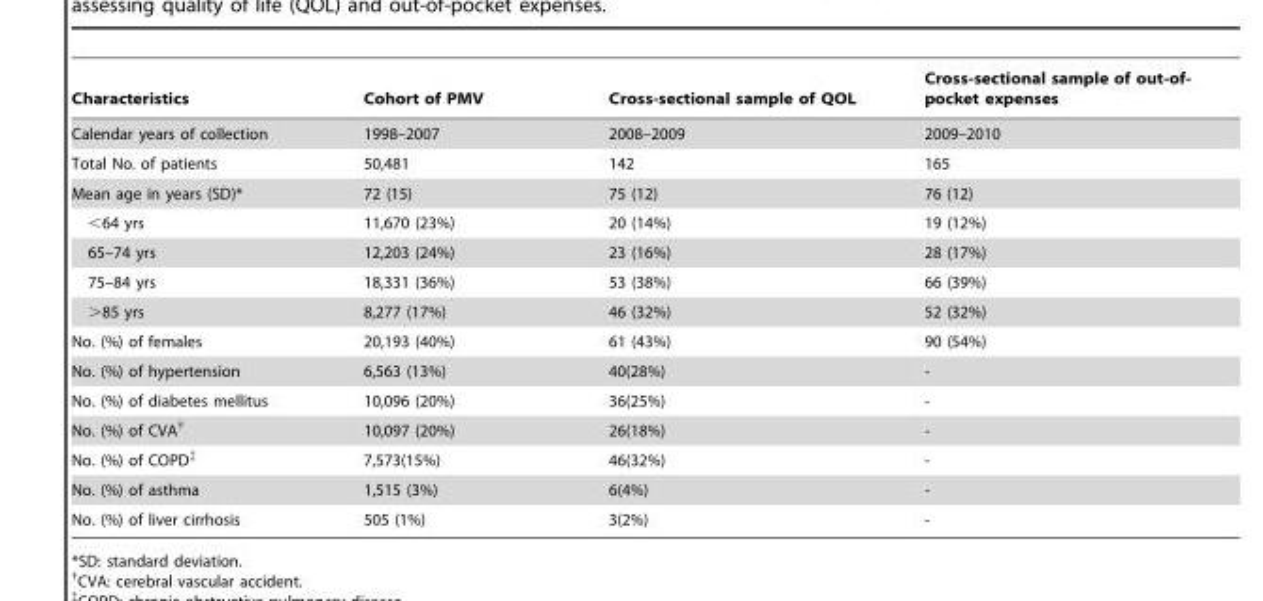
<table><thead><tr><td>Characteristics</td><td>Cohort of PMV</td><td>Cross-sectional sample of QOL</td><td>Cross-sectional sample of out-of- pocket expenses</td></tr></thead><tbody><tr><td>Calendar years of collection</td><td>1998–2007</td><td>2008–2009</td><td>2009–2010</td></tr><tr><td>Total No. of patients</td><td>50,481</td><td>142</td><td>165</td></tr><tr><td>Mean age in years (SD)*</td><td>72 (15)</td><td>75 (12)</td><td>76 (12)</td></tr><tr><td>&lt;64 yrs</td><td>11,670 (23%)</td><td>20 (14%)</td><td>19 (12%)</td></tr><tr><td>65–74 yrs</td><td>12,203 (24%)</td><td>23 (16%)</td><td>28 (17%)</td></tr><tr><td>75–84 yrs</td><td>18,331 (36%)</td><td>53 (38%)</td><td>66 (39%)</td></tr><tr><td>&gt;85 yrs</td><td>8,277 (17%)</td><td>46 (32%)</td><td>52 (32%)</td></tr><tr><td>No. (%) of females</td><td>20,193 (40%)</td><td>61 (43%)</td><td>90 (54%)</td></tr><tr><td>No. (%) of hypertension</td><td>6,563 (13%)</td><td>40(28%)</td><td>-</td></tr><tr><td>No. (%) of diabetes mellitus</td><td>10,096 (20%)</td><td>36(25%)</td><td>-</td></tr><tr><td>No. (%) of CVA†</td><td>10,097 (20%)</td><td>26(18%)</td><td>-</td></tr><tr><td>No. (%) of COPD‡</td><td>7,573(15%)</td><td>46(32%)</td><td>-</td></tr><tr><td>No. (%) of asthma</td><td>1,515 (3%)</td><td>6(4%)</td><td>-</td></tr><tr><td>No. (%) of liver cirrhosis</td><td>505 (1%)</td><td>3(2%)</td><td>-</td></tr></tbody></table>